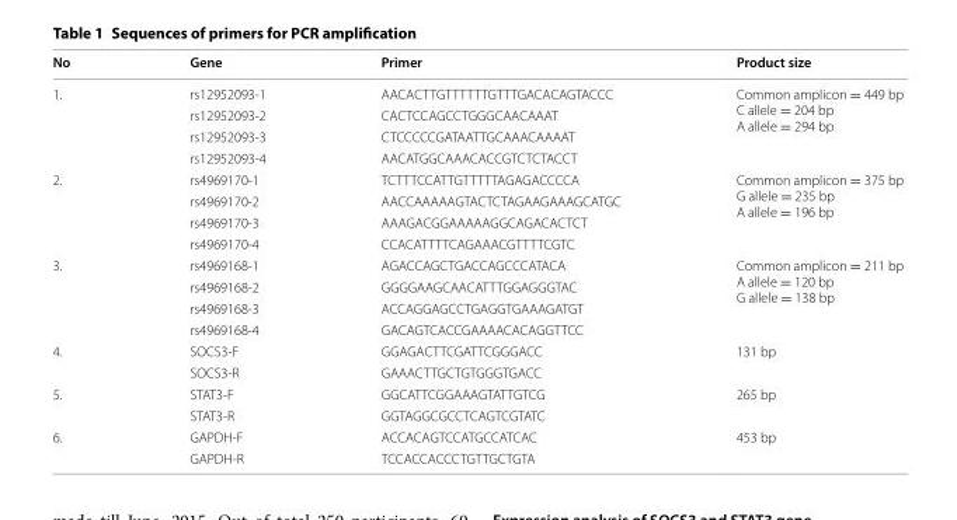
<table><thead><tr><td>No</td><td>Gene</td><td>Primer</td><td>Product size</td></tr></thead><tbody><tr><td rowspan="4">1.</td><td>rs12952093-1</td><td>AACACTTGTTTTTTGTTTGACACAGTACCC</td><td rowspan="4">Common amplicon = 449 bp C allele = 204 bp A allele = 294 bp</td></tr><tr><td>rs12952093-2</td><td>CACTCCAGCCTGGGCAACAAAT</td></tr><tr><td>rs12952093-3</td><td>CTCCCCCGATAATTGCAAACAAAAT</td></tr><tr><td>rs12952093-4</td><td>AACATGGCAAACACCGTCTCTACCT</td></tr><tr><td rowspan="4">2.</td><td>rs4969170-1</td><td>TCTTTCCATTGTTTTTAGAGACCCCA</td><td rowspan="4">Common amplicon = 375 bp G allele = 235 bp A allele = 196 bp</td></tr><tr><td>rs4969170-2</td><td>AACCAAAAAGTACTCTAGAAGAAAGCATGC</td></tr><tr><td>rs4969170-3</td><td>AAAGACGGAAAAAGGCAGACACTCT</td></tr><tr><td>rs4969170-4</td><td>CCACATTTTCAGAAACGTTTTCGTC</td></tr><tr><td rowspan="4">3.</td><td>rs4969168-1</td><td>AGACCAGCTGACCAGCCCATACA</td><td rowspan="4">Common amplicon = 211 bp A allele = 120 bp G allele = 138 bp</td></tr><tr><td>rs4969168-2</td><td>GGGGAAGCAACATTTGGAGGGTAC</td></tr><tr><td>rs4969168-3</td><td>ACCAGGAGCCTGAGGTGAAAGATGT</td></tr><tr><td>rs4969168-4</td><td>GACAGTCACCGAAAACACAGGTTCC</td></tr><tr><td rowspan="2">4.</td><td>SOCS3-F</td><td>GGAGACTTCGATTCGGGACC</td><td rowspan="2">131 bp</td></tr><tr><td>SOCS3-R</td><td>GAAACTTGCTGTGGGTGACC</td></tr><tr><td rowspan="2">5.</td><td>STAT3-F</td><td>GGCATTCGGAAAGTATTGTCG</td><td rowspan="2">265 bp</td></tr><tr><td>STAT3-R</td><td>GGTAGGCGCCTCAGTCGTATC</td></tr><tr><td rowspan="2">6.</td><td>GAPDH-F</td><td>ACCACAGTCCATGCCATCAC</td><td rowspan="2">453 bp</td></tr><tr><td>GAPDH-R</td><td>TCCACCACCCTGTTGCTGTA</td></tr></tbody></table>